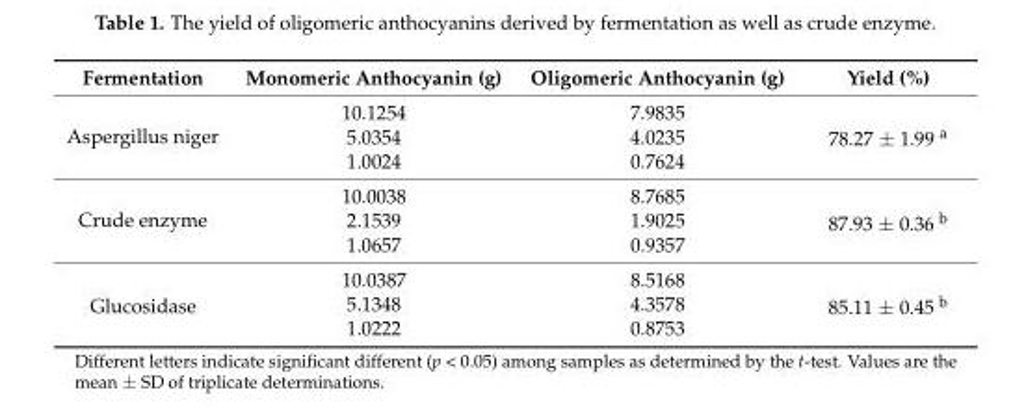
<table><thead><tr><td>Fermentation</td><td>Monomeric Anthocyanin (g)</td><td>Oligomeric Anthocyanin (g)</td><td>Yield (%)</td></tr></thead><tbody><tr><td rowspan="3">Aspergillus niger</td><td>10.1254</td><td>7.9835</td><td rowspan="3">78.27 ± 1.99 <sup>a</sup></td></tr><tr><td>5.0354</td><td>4.0235</td></tr><tr><td>1.0024</td><td>0.7624</td></tr><tr><td rowspan="3">Crude enzyme</td><td>10.0038</td><td>8.7685</td><td rowspan="3">87.93 ± 0.36 <sup>b</sup></td></tr><tr><td>2.1539</td><td>1.9025</td></tr><tr><td>1.0657</td><td>0.9357</td></tr><tr><td rowspan="3">Glucosidase</td><td>10.0387</td><td>8.5168</td><td rowspan="3">85.11 ± 0.45 <sup>b</sup></td></tr><tr><td>5.1348</td><td>4.3578</td></tr><tr><td>1.0222</td><td>0.8753</td></tr></tbody></table>